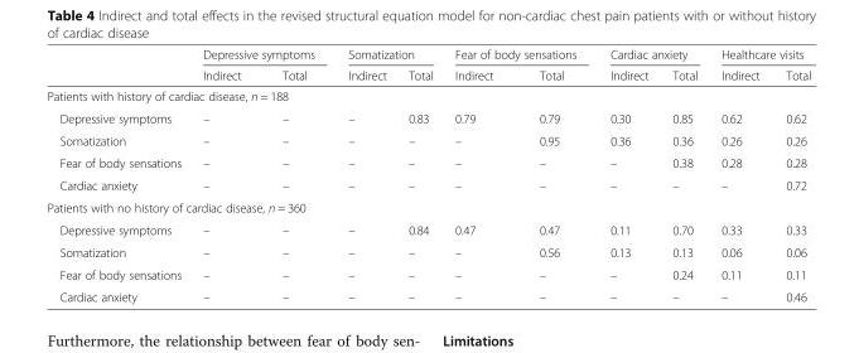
<table><thead><tr><td rowspan="2"></td><td colspan="2">Depressive symptoms</td><td colspan="2">Somatization</td><td colspan="2">Fear of body sensations</td><td colspan="2">Cardiac anxiety</td><td colspan="2">Healthcare visits</td></tr><tr><td>Indirect</td><td>Total</td><td>Indirect</td><td>Total</td><td>Indirect</td><td>Total</td><td>Indirect</td><td>Total</td><td>Indirect</td><td>Total</td></tr></thead><tbody><tr><td colspan="11">Patients with history of cardiac disease, n = 188</td></tr><tr><td>Depressive symptoms</td><td>–</td><td>–</td><td>–</td><td>0.83</td><td>0.79</td><td>0.79</td><td>0.30</td><td>0.85</td><td>0.62</td><td>0.62</td></tr><tr><td>Somatization</td><td>–</td><td>–</td><td>–</td><td>–</td><td>–</td><td>0.95</td><td>0.36</td><td>0.36</td><td>0.26</td><td>0.26</td></tr><tr><td>Fear of body sensations</td><td>–</td><td>–</td><td>–</td><td>–</td><td>–</td><td>–</td><td>–</td><td>0.38</td><td>0.28</td><td>0.28</td></tr><tr><td>Cardiac anxiety</td><td>–</td><td>–</td><td>–</td><td>–</td><td>–</td><td>–</td><td>–</td><td>–</td><td>–</td><td>0.72</td></tr><tr><td colspan="11">Patients with no history of cardiac disease, n = 360</td></tr><tr><td>Depressive symptoms</td><td>–</td><td>–</td><td>–</td><td>0.84</td><td>0.47</td><td>0.47</td><td>0.11</td><td>0.70</td><td>0.33</td><td>0.33</td></tr><tr><td>Somatization</td><td>–</td><td>–</td><td>–</td><td>–</td><td>–</td><td>0.56</td><td>0.13</td><td>0.13</td><td>0.06</td><td>0.06</td></tr><tr><td>Fear of body sensations</td><td>–</td><td>–</td><td>–</td><td>–</td><td>–</td><td>–</td><td>–</td><td>0.24</td><td>0.11</td><td>0.11</td></tr><tr><td>Cardiac anxiety</td><td>–</td><td>–</td><td>–</td><td>–</td><td>–</td><td>–</td><td>–</td><td>–</td><td>–</td><td>0.46</td></tr></tbody></table>